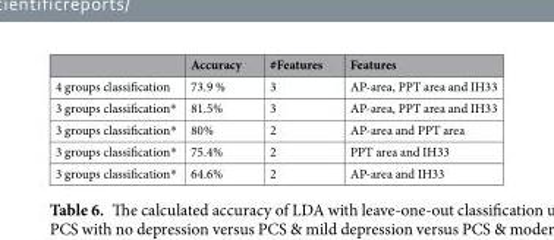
<table><thead><tr><td></td><td>Accuracy</td><td>#Features</td><td>Features</td></tr></thead><tbody><tr><td>4 groups classification</td><td>73.9 %</td><td>3</td><td>AP-area, PPT area and IH33</td></tr><tr><td>3 groups classification*</td><td>81.5%</td><td>3</td><td>AP-area, PPT area and IH33</td></tr><tr><td>3 groups classification*</td><td>80%</td><td>2</td><td>AP-area and PPT area</td></tr><tr><td>3 groups classification*</td><td>75.4%</td><td>2</td><td>PPT area and IH33</td></tr><tr><td>3 groups classification*</td><td>64.6%</td><td>2</td><td>AP-area and IH33</td></tr></tbody></table>